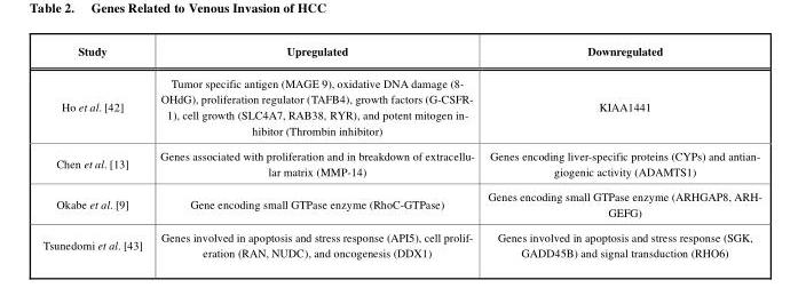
<table><thead><tr><td>Study</td><td>Upregulated</td><td>Downregulated</td></tr></thead><tbody><tr><td>Ho et al. [42]</td><td>Tumor specific antigen (MAGE 9), oxidative DNA damage (8- OHdG), proliferation regulator (TAFB4), growth factors (G-CSFR- 1), cell growth (SLC4A7, RAB38, RYR), and potent mitogen in- hibitor (Thrombin inhibitor)</td><td>KIAA1441</td></tr><tr><td>Chen et al. [13]</td><td>Genes associated with proliferation and in breakdown of extracellu- lar matrix (MMP-14)</td><td>Genes encoding liver-specific proteins (CYPs) and antian- giogenic activity (ADAMTS1)</td></tr><tr><td>Okabe et al. [9]</td><td>Gene encoding small GTPase enzyme (RhoC-GTPase)</td><td>Genes encoding small GTPase enzyme (ARHGAP8, ARH- GEFG)</td></tr><tr><td>Tsunedomi et al. [43]</td><td>Genes involved in apoptosis and stress response (API5), cell prolif- eration (RAN, NUDC), and oncogenesis (DDX1)</td><td>Genes involved in apoptosis and stress response (SGK, GADD45B) and signal transduction (RHO6)</td></tr></tbody></table>